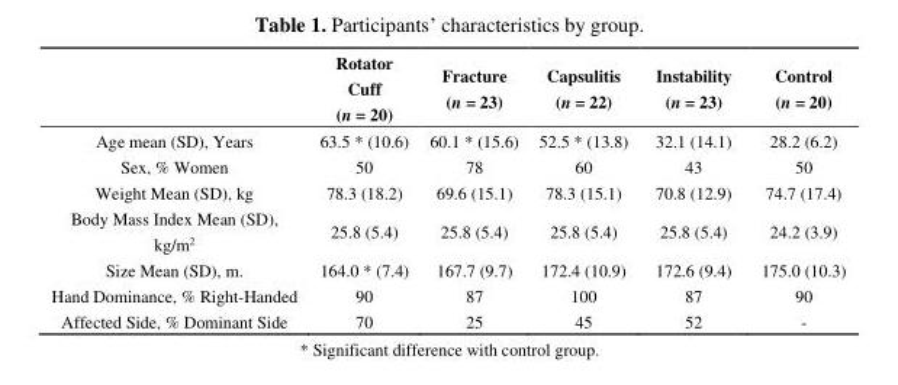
<table><thead><tr><td></td><td>Rotator Cuff (n = 20)</td><td>Fracture (n = 23)</td><td>Capsulitis (n = 22)</td><td>Instability (n = 23)</td><td>Control (n = 20)</td></tr></thead><tbody><tr><td>Age mean (SD), Years</td><td>63.5 * (10.6)</td><td>60.1 * (15.6)</td><td>52.5 * (13.8)</td><td>32.1 (14.1)</td><td>28.2 (6.2)</td></tr><tr><td>Sex, % Women</td><td>50</td><td>78</td><td>60</td><td>43</td><td>50</td></tr><tr><td>Weight Mean (SD), kg</td><td>78.3 (18.2)</td><td>69.6 (15.1)</td><td>78.3 (15.1)</td><td>70.8 (12.9)</td><td>74.7 (17.4)</td></tr><tr><td>Body Mass Index Mean (SD), kg/m<sup>2</sup></td><td>25.8 (5.4)</td><td>25.8 (5.4)</td><td>25.8 (5.4)</td><td>25.8 (5.4)</td><td>24.2 (3.9)</td></tr><tr><td>Size Mean (SD), m.</td><td>164.0 * (7.4)</td><td>167.7 (9.7)</td><td>172.4 (10.9)</td><td>172.6 (9.4)</td><td>175.0 (10.3)</td></tr><tr><td>Hand Dominance, % Right-Handed</td><td>90</td><td>87</td><td>100</td><td>87</td><td>90</td></tr><tr><td>Affected Side, % Dominant Side</td><td>70</td><td>25</td><td>45</td><td>52</td><td>-</td></tr></tbody></table>